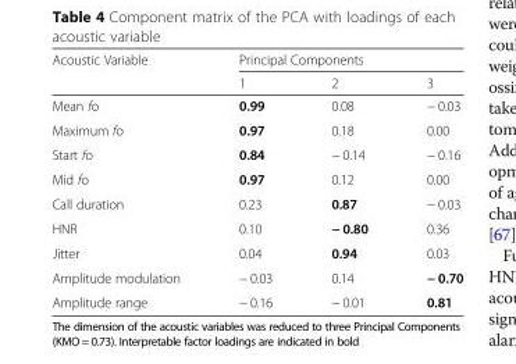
<table><thead><tr><td rowspan="2">Acoustic Variable</td><td colspan="3">Principal Components</td></tr><tr><td>1</td><td>2</td><td>3</td></tr></thead><tbody><tr><td>Mean fo</td><td>0.99</td><td>0.08</td><td>− 0.03</td></tr><tr><td>Maximum fo</td><td>0.97</td><td>0.18</td><td>0.00</td></tr><tr><td>Start fo</td><td>0.84</td><td>− 0.14</td><td>− 0.16</td></tr><tr><td>Mid fo</td><td>0.97</td><td>0.12</td><td>0.00</td></tr><tr><td>Call duration</td><td>0.23</td><td>0.87</td><td>− 0.03</td></tr><tr><td>HNR</td><td>0.10</td><td>− 0.80</td><td>0.36</td></tr><tr><td>Jitter</td><td>0.04</td><td>0.94</td><td>0.03</td></tr><tr><td>Amplitude modulation</td><td>− 0.03</td><td>0.14</td><td>− 0.70</td></tr><tr><td>Amplitude range</td><td>− 0.16</td><td>− 0.01</td><td>0.81</td></tr></tbody></table>